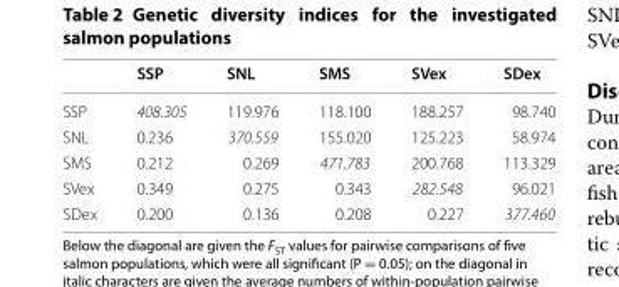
<table><thead><tr><td></td><td>SSP</td><td>SNL</td><td>SMS</td><td>SVex</td><td>SDex</td></tr></thead><tbody><tr><td>SSP</td><td>408.305</td><td>119.976</td><td>118.100</td><td>188.257</td><td>98.740</td></tr><tr><td>SNL</td><td>0.236</td><td>370.559</td><td>155.020</td><td>125.223</td><td>58.974</td></tr><tr><td>SMS</td><td>0.212</td><td>0.269</td><td>471.783</td><td>200.768</td><td>113.329</td></tr><tr><td>SVex</td><td>0.349</td><td>0.275</td><td>0.343</td><td>282.548</td><td>96.021</td></tr><tr><td>SDex</td><td>0.200</td><td>0.136</td><td>0.208</td><td>0.227</td><td>377.460</td></tr></tbody></table>